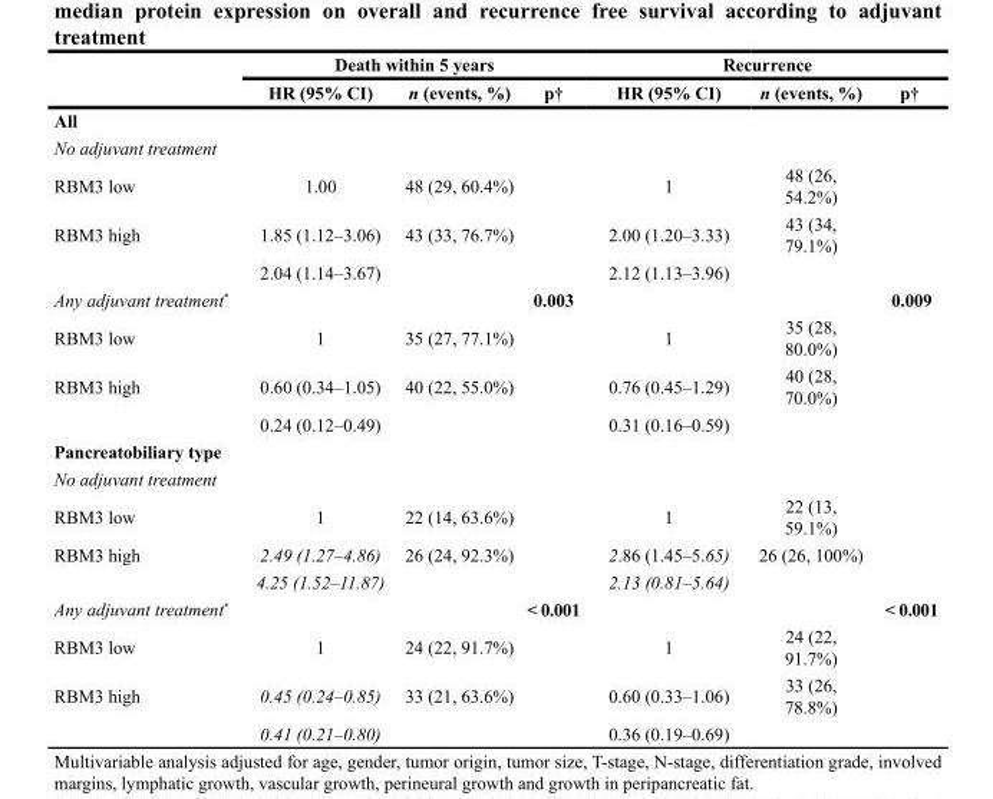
<table><thead><tr><td rowspan="2"></td><td colspan="3">Death within 5 years</td><td colspan="3">Recurrence</td></tr><tr><td>HR (95% CI)</td><td>n (events, %)</td><td>p†</td><td>HR (95% CI)</td><td>n (events, %)</td><td>p†</td></tr></thead><tbody><tr><td colspan="7">All</td></tr><tr><td colspan="7">No adjuvant treatment</td></tr><tr><td>RBM3 low</td><td>1.00</td><td>48 (29, 60.4%)</td><td></td><td>1</td><td>48 (26, 54.2%)</td><td></td></tr><tr><td rowspan="2">RBM3 high</td><td>1.85 (1.12–3.06)</td><td>43 (33, 76.7%)</td><td></td><td>2.00 (1.20–3.33)</td><td>43 (34, 79.1%)</td><td></td></tr><tr><td>2.04 (1.14–3.67)</td><td></td><td></td><td>2.12 (1.13–3.96)</td><td></td><td></td></tr><tr><td>Any adjuvant treatment*</td><td></td><td></td><td>0.003</td><td></td><td></td><td>0.009</td></tr><tr><td>RBM3 low</td><td>1</td><td>35 (27, 77.1%)</td><td></td><td>1</td><td>35 (28, 80.0%)</td><td></td></tr><tr><td rowspan="2">RBM3 high</td><td>0.60 (0.34–1.05)</td><td>40 (22, 55.0%)</td><td></td><td>0.76 (0.45–1.29)</td><td>40 (28, 70.0%)</td><td></td></tr><tr><td>0.24 (0.12–0.49)</td><td></td><td></td><td>0.31 (0.16–0.59)</td><td></td><td></td></tr><tr><td colspan="7">Pancreatobiliary type</td></tr><tr><td colspan="7">No adjuvant treatment</td></tr><tr><td>RBM3 low</td><td>1</td><td>22 (14, 63.6%)</td><td></td><td>1</td><td>22 (13, 59.1%)</td><td></td></tr><tr><td rowspan="2">RBM3 high</td><td>2.49 (1.27–4.86)</td><td>26 (24, 92.3%)</td><td></td><td>2.86 (1.45–5.65)</td><td>26 (26, 100%)</td><td></td></tr><tr><td>4.25 (1.52–11.87)</td><td></td><td></td><td>2.13 (0.81–5.64)</td><td></td><td></td></tr><tr><td>Any adjuvant treatment*</td><td></td><td></td><td>&lt; 0.001</td><td></td><td></td><td>&lt; 0.001</td></tr><tr><td>RBM3 low</td><td>1</td><td>24 (22, 91.7%)</td><td></td><td>1</td><td>24 (22, 91.7%)</td><td></td></tr><tr><td rowspan="2">RBM3 high</td><td>0.45 (0.24–0.85)</td><td>33 (21, 63.6%)</td><td></td><td>0.60 (0.33–1.06)</td><td>33 (26, 78.8%)</td><td></td></tr><tr><td>0.41 (0.21–0.80)</td><td></td><td></td><td>0.36 (0.19–0.69)</td><td></td><td></td></tr></tbody></table>